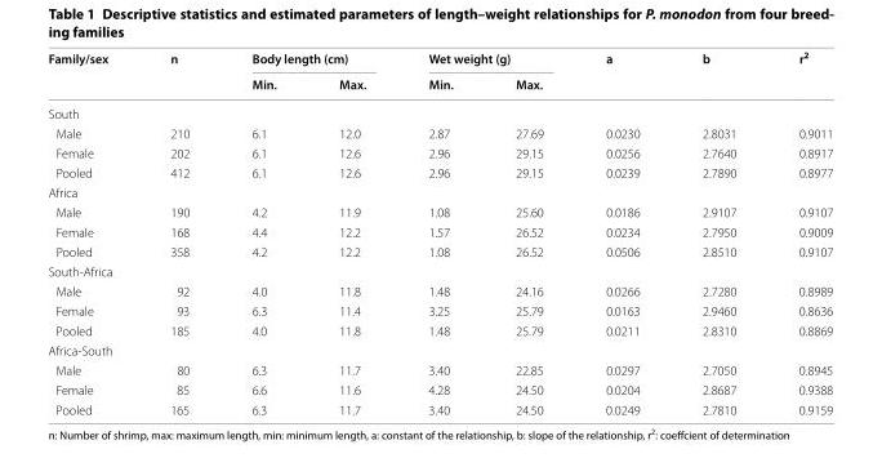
<table><thead><tr><td rowspan="2">Family/sex</td><td rowspan="2">n</td><td colspan="2">Body length (cm)</td><td colspan="2">Wet weight (g)</td><td rowspan="2">a</td><td rowspan="2">b</td><td rowspan="2">r<sup>2</sup></td></tr><tr><td>Min.</td><td>Max.</td><td>Min.</td><td>Max.</td></tr></thead><tbody><tr><td colspan="9">South</td></tr><tr><td>Male</td><td>210</td><td>6.1</td><td>12.0</td><td>2.87</td><td>27.69</td><td>0.0230</td><td>2.8031</td><td>0.9011</td></tr><tr><td>Female</td><td>202</td><td>6.1</td><td>12.6</td><td>2.96</td><td>29.15</td><td>0.0256</td><td>2.7640</td><td>0.8917</td></tr><tr><td>Pooled</td><td>412</td><td>6.1</td><td>12.6</td><td>2.96</td><td>29.15</td><td>0.0239</td><td>2.7890</td><td>0.8977</td></tr><tr><td colspan="9">Africa</td></tr><tr><td>Male</td><td>190</td><td>4.2</td><td>11.9</td><td>1.08</td><td>25.60</td><td>0.0186</td><td>2.9107</td><td>0.9107</td></tr><tr><td>Female</td><td>168</td><td>4.4</td><td>12.2</td><td>1.57</td><td>26.52</td><td>0.0234</td><td>2.7950</td><td>0.9009</td></tr><tr><td>Pooled</td><td>358</td><td>4.2</td><td>12.2</td><td>1.08</td><td>26.52</td><td>0.0506</td><td>2.8510</td><td>0.9107</td></tr><tr><td colspan="9">South-Africa</td></tr><tr><td>Male</td><td>92</td><td>4.0</td><td>11.8</td><td>1.48</td><td>24.16</td><td>0.0266</td><td>2.7280</td><td>0.8989</td></tr><tr><td>Female</td><td>93</td><td>6.3</td><td>11.4</td><td>3.25</td><td>25.79</td><td>0.0163</td><td>2.9460</td><td>0.8636</td></tr><tr><td>Pooled</td><td>185</td><td>4.0</td><td>11.8</td><td>1.48</td><td>25.79</td><td>0.0211</td><td>2.8310</td><td>0.8869</td></tr><tr><td colspan="9">Africa-South</td></tr><tr><td>Male</td><td>80</td><td>6.3</td><td>11.7</td><td>3.40</td><td>22.85</td><td>0.0297</td><td>2.7050</td><td>0.8945</td></tr><tr><td>Female</td><td>85</td><td>6.6</td><td>11.6</td><td>4.28</td><td>24.50</td><td>0.0204</td><td>2.8687</td><td>0.9388</td></tr><tr><td>Pooled</td><td>165</td><td>6.3</td><td>11.7</td><td>3.40</td><td>24.50</td><td>0.0249</td><td>2.7810</td><td>0.9159</td></tr></tbody></table>